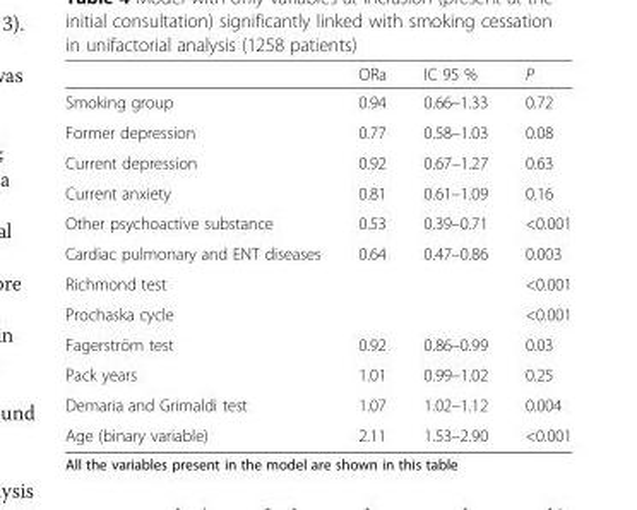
<table><thead><tr><td></td><td>ORa</td><td>IC 95 %</td><td>P</td></tr></thead><tbody><tr><td>Smoking group</td><td>0.94</td><td>0.66–1.33</td><td>0.72</td></tr><tr><td>Former depression</td><td>0.77</td><td>0.58–1.03</td><td>0.08</td></tr><tr><td>Current depression</td><td>0.92</td><td>0.67–1.27</td><td>0.63</td></tr><tr><td>Current anxiety</td><td>0.81</td><td>0.61–1.09</td><td>0.16</td></tr><tr><td>Other psychoactive substance</td><td>0.53</td><td>0.39–0.71</td><td>&lt;0.001</td></tr><tr><td>Cardiac pulmonary and ENT diseases</td><td>0.64</td><td>0.47–0.86</td><td>0.003</td></tr><tr><td>Richmond test</td><td></td><td></td><td>&lt;0.001</td></tr><tr><td>Prochaska cycle</td><td></td><td></td><td>&lt;0.001</td></tr><tr><td>Fagerström test</td><td>0.92</td><td>0.86–0.99</td><td>0.03</td></tr><tr><td>Pack years</td><td>1.01</td><td>0.99–1.02</td><td>0.25</td></tr><tr><td>Demaria and Grimaldi test</td><td>1.07</td><td>1.02–1.12</td><td>0.004</td></tr><tr><td>Age (binary variable)</td><td>2.11</td><td>1.53–2.90</td><td>&lt;0.001</td></tr></tbody></table>